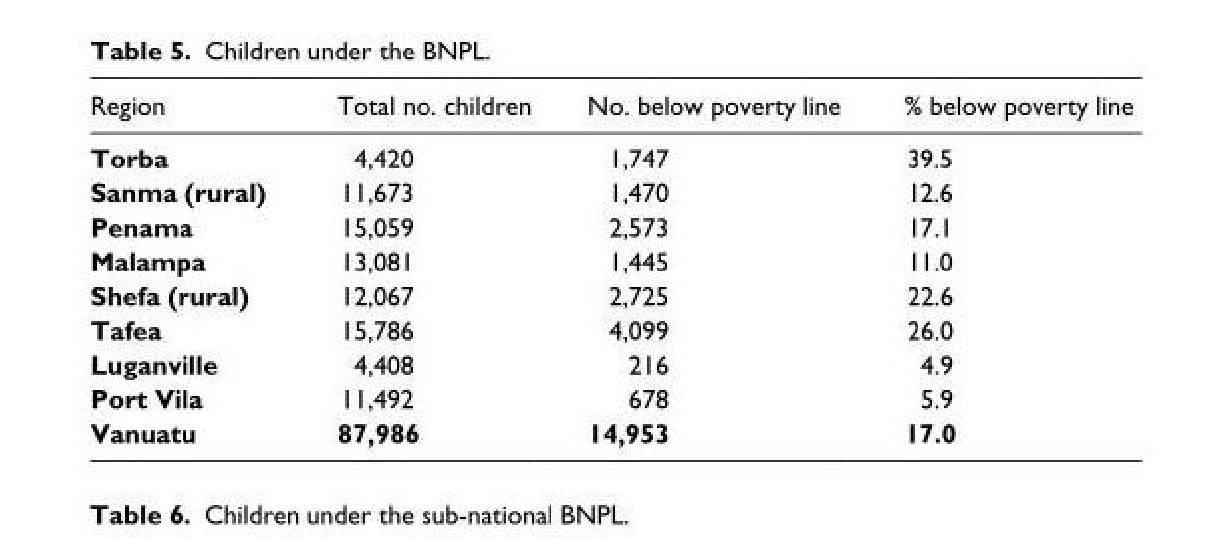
<table><thead><tr><td>Region</td><td>Total no. children</td><td>No. below poverty line</td><td>% below poverty line</td></tr></thead><tbody><tr><td>Torba</td><td>4,420</td><td>1,747</td><td>39.5</td></tr><tr><td>Sanma (rural)</td><td>11,673</td><td>1,470</td><td>12.6</td></tr><tr><td>Penama</td><td>15,059</td><td>2,573</td><td>17.1</td></tr><tr><td>Malampa</td><td>13,081</td><td>1,445</td><td>11.0</td></tr><tr><td>Shefa (rural)</td><td>12,067</td><td>2,725</td><td>22.6</td></tr><tr><td>Tafea</td><td>15,786</td><td>4,099</td><td>26.0</td></tr><tr><td>Luganville</td><td>4,408</td><td>216</td><td>4.9</td></tr><tr><td>Port Vila</td><td>11,492</td><td>678</td><td>5.9</td></tr><tr><td>Vanuatu</td><td>87,986</td><td>14,953</td><td>17.0</td></tr></tbody></table>